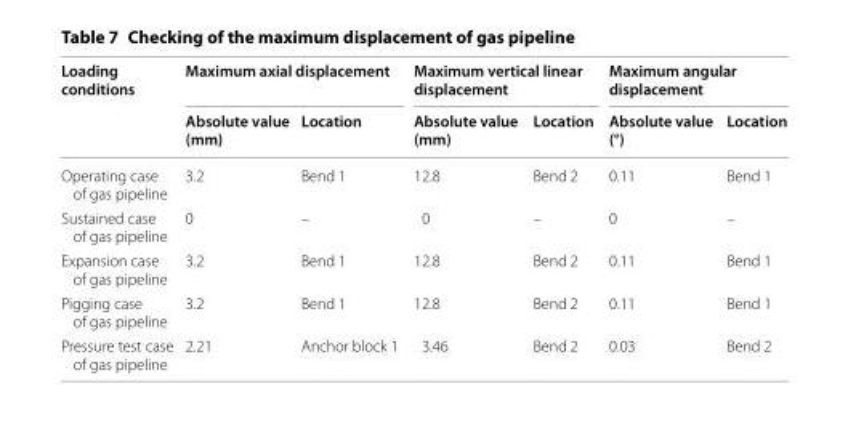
<table><thead><tr><td rowspan="2">Loading conditions</td><td colspan="2">Maximum axial displacement</td><td colspan="2">Maximum vertical linear displacement</td><td colspan="2">Maximum angular displacement</td></tr><tr><td>Absolute value (mm)</td><td>Location</td><td>Absolute value (mm)</td><td>Location</td><td>Absolute value (°)</td><td>Location</td></tr></thead><tbody><tr><td>Operating case of gas pipeline</td><td>3.2</td><td>Bend 1</td><td>12.8</td><td>Bend 2</td><td>0.11</td><td>Bend 1</td></tr><tr><td>Sustained case of gas pipeline</td><td>0</td><td>–</td><td>0</td><td>–</td><td>0</td><td>–</td></tr><tr><td>Expansion case of gas pipeline</td><td>3.2</td><td>Bend 1</td><td>12.8</td><td>Bend 2</td><td>0.11</td><td>Bend 1</td></tr><tr><td>Pigging case of gas pipeline</td><td>3.2</td><td>Bend 1</td><td>12.8</td><td>Bend 2</td><td>0.11</td><td>Bend 1</td></tr><tr><td>Pressure test case of gas pipeline</td><td>2.21</td><td>Anchor block 1</td><td>3.46</td><td>Bend 2</td><td>0.03</td><td>Bend 2</td></tr></tbody></table>